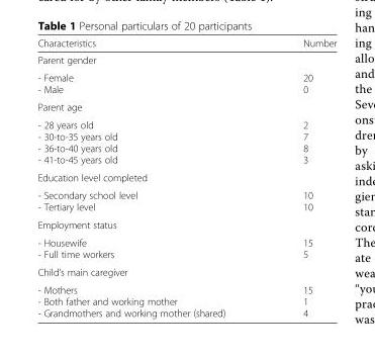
<table><thead><tr><td>Characteristics</td><td>Number</td></tr></thead><tbody><tr><td colspan="2">Parent gender</td></tr><tr><td>- Female - Male</td><td>20 0</td></tr><tr><td colspan="2">Parent age</td></tr><tr><td>- 28 years old - 30-to-35 years old - 36-to-40 years old - 41-to-45 years old</td><td>2 7 8 3</td></tr><tr><td colspan="2">Education level completed</td></tr><tr><td>- Secondary school level - Tertiary level</td><td>10 10</td></tr><tr><td colspan="2">Employment status</td></tr><tr><td>- Housewife - Full time workers</td><td>15 5</td></tr><tr><td colspan="2">Child’s main caregiver</td></tr><tr><td>- Mothers - Both father and working mother - Grandmothers and working mother (shared)</td><td>15 1 4</td></tr></tbody></table>